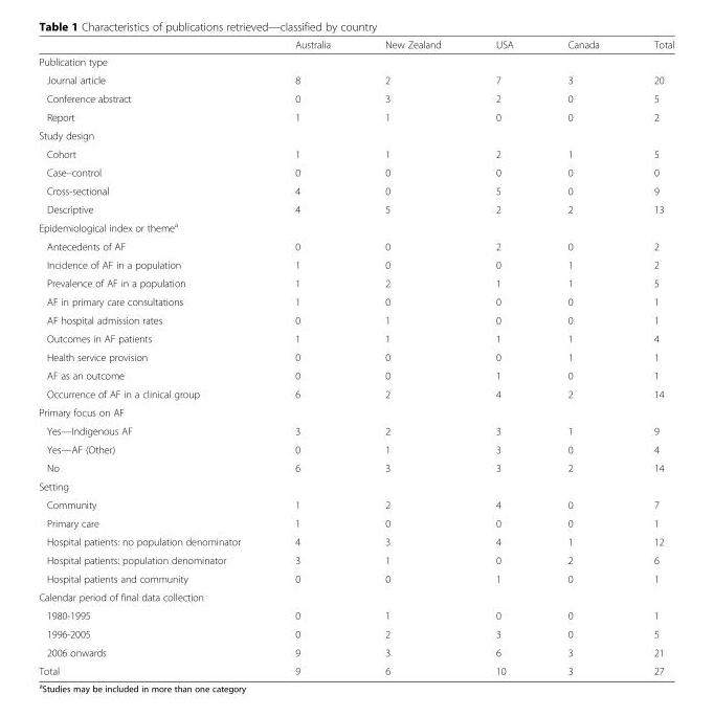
<table><thead><tr><td></td><td>Australia</td><td>New Zealand</td><td>USA</td><td>Canada</td><td>Total</td></tr></thead><tbody><tr><td colspan="6">Publication type</td></tr><tr><td>Journal article</td><td>8</td><td>2</td><td>7</td><td>3</td><td>20</td></tr><tr><td>Conference abstract</td><td>0</td><td>3</td><td>2</td><td>0</td><td>5</td></tr><tr><td>Report</td><td>1</td><td>1</td><td>0</td><td>0</td><td>2</td></tr><tr><td colspan="6">Study design</td></tr><tr><td>Cohort</td><td>1</td><td>1</td><td>2</td><td>1</td><td>5</td></tr><tr><td>Case–control</td><td>0</td><td>0</td><td>0</td><td>0</td><td>0</td></tr><tr><td>Cross-sectional</td><td>4</td><td>0</td><td>5</td><td>0</td><td>9</td></tr><tr><td>Descriptive</td><td>4</td><td>5</td><td>2</td><td>2</td><td>13</td></tr><tr><td colspan="6">Epidemiological index or theme<sup>a</sup></td></tr><tr><td>Antecedents of AF</td><td>0</td><td>0</td><td>2</td><td>0</td><td>2</td></tr><tr><td>Incidence of AF in a population</td><td>1</td><td>0</td><td>0</td><td>1</td><td>2</td></tr><tr><td>Prevalence of AF in a population</td><td>1</td><td>2</td><td>1</td><td>1</td><td>5</td></tr><tr><td>AF in primary care consultations</td><td>1</td><td>0</td><td>0</td><td>0</td><td>1</td></tr><tr><td>AF hospital admission rates</td><td>0</td><td>1</td><td>0</td><td>0</td><td>1</td></tr><tr><td>Outcomes in AF patients</td><td>1</td><td>1</td><td>1</td><td>1</td><td>4</td></tr><tr><td>Health service provision</td><td>0</td><td>0</td><td>0</td><td>1</td><td>1</td></tr><tr><td>AF as an outcome</td><td>0</td><td>0</td><td>1</td><td>0</td><td>1</td></tr><tr><td>Occurrence of AF in a clinical group</td><td>6</td><td>2</td><td>4</td><td>2</td><td>14</td></tr><tr><td colspan="6">Primary focus on AF</td></tr><tr><td>Yes—Indigenous AF</td><td>3</td><td>2</td><td>3</td><td>1</td><td>9</td></tr><tr><td>Yes—AF (Other)</td><td>0</td><td>1</td><td>3</td><td>0</td><td>4</td></tr><tr><td>No</td><td>6</td><td>3</td><td>3</td><td>2</td><td>14</td></tr><tr><td colspan="6">Setting</td></tr><tr><td>Community</td><td>1</td><td>2</td><td>4</td><td>0</td><td>7</td></tr><tr><td>Primary care</td><td>1</td><td>0</td><td>0</td><td>0</td><td>1</td></tr><tr><td>Hospital patients: no population denominator</td><td>4</td><td>3</td><td>4</td><td>1</td><td>12</td></tr><tr><td>Hospital patients: population denominator</td><td>3</td><td>1</td><td>0</td><td>2</td><td>6</td></tr><tr><td>Hospital patients and community</td><td>0</td><td>0</td><td>1</td><td>0</td><td>1</td></tr><tr><td colspan="6">Calendar period of final data collection</td></tr><tr><td>1980-1995</td><td>0</td><td>1</td><td>0</td><td>0</td><td>1</td></tr><tr><td>1996-2005</td><td>0</td><td>2</td><td>3</td><td>0</td><td>5</td></tr><tr><td>2006 onwards</td><td>9</td><td>3</td><td>6</td><td>3</td><td>21</td></tr><tr><td>Total</td><td>9</td><td>6</td><td>10</td><td>3</td><td>27</td></tr></tbody></table>